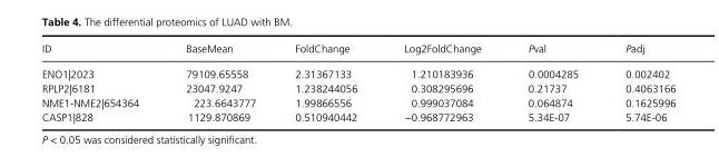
<table><thead><tr><td>ID</td><td>BaseMean</td><td>FoldChange</td><td>Log2FoldChange</td><td>Pval</td><td>Padj</td></tr></thead><tbody><tr><td>ENO1|2023</td><td>79109.65558</td><td>2.31367133</td><td>1.210183936</td><td>0.0004285</td><td>0.002402</td></tr><tr><td>RPLP2|6181</td><td>23047.9247</td><td>1.238244056</td><td>0.308295696</td><td>0.21737</td><td>0.4063166</td></tr><tr><td>NME1- NME2|654364</td><td>223.6643777</td><td>1.99866556</td><td>0.999037084</td><td>0.064874</td><td>0.1625996</td></tr><tr><td>CASP1|828</td><td>1129.870869</td><td>0.510940442</td><td>−0.968772963</td><td>5.34E- 07</td><td>5.74E- 06</td></tr></tbody></table>